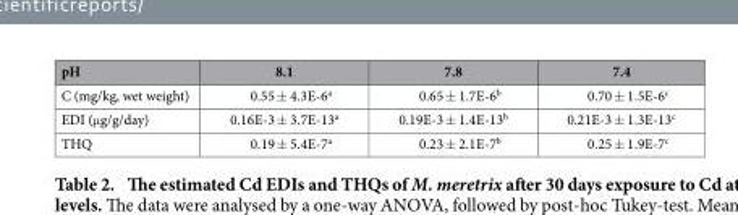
<table><thead><tr><td>pH</td><td>8.1</td><td>7.8</td><td>7.4</td></tr></thead><tbody><tr><td>C (mg/kg, wet weight)</td><td>0.55 ± 4.3E-6<sup>a</sup></td><td>0.65 ± 1.7E-6<sup>b</sup></td><td>0.70 ± 1.5E-6<sup>c</sup></td></tr><tr><td>EDI (μg/g/day)</td><td>0.16E-3 ± 3.7E-13<sup>a</sup></td><td>0.19E-3 ± 1.4E-13<sup>b</sup></td><td>0.21E-3 ± 1.3E-13<sup>c</sup></td></tr><tr><td>THQ</td><td>0.19 ± 5.4E-7<sup>a</sup></td><td>0.23 ± 2.1E-7<sup>b</sup></td><td>0.25 ± 1.9E-7<sup>c</sup></td></tr></tbody></table>